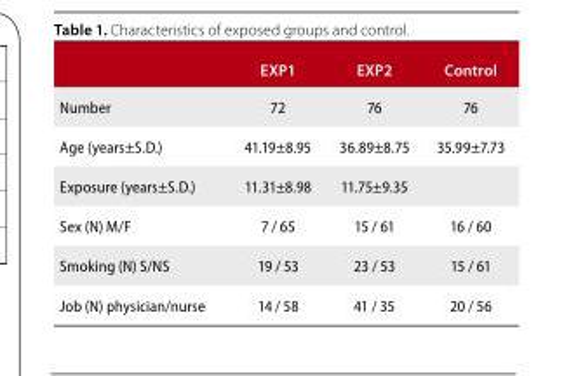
<table><thead><tr><td></td><td>EXP1</td><td>EXP2</td><td>Control</td></tr></thead><tbody><tr><td>Number</td><td>72</td><td>76</td><td>76</td></tr><tr><td>Age (years±S.D.)</td><td>41.19±8.95</td><td>36.89±8.75</td><td>35.99±7.73</td></tr><tr><td>Exposure (years±S.D.)</td><td>11.31±8.98</td><td>11.75±9.35</td><td></td></tr><tr><td>Sex (N) M/F</td><td>7 / 65</td><td>15 / 61</td><td>16 / 60</td></tr><tr><td>Smoking (N) S/NS</td><td>19 / 53</td><td>23 / 53</td><td>15 / 61</td></tr><tr><td>Job (N) physician/nurse</td><td>14 / 58</td><td>41 / 35</td><td>20 / 56</td></tr></tbody></table>